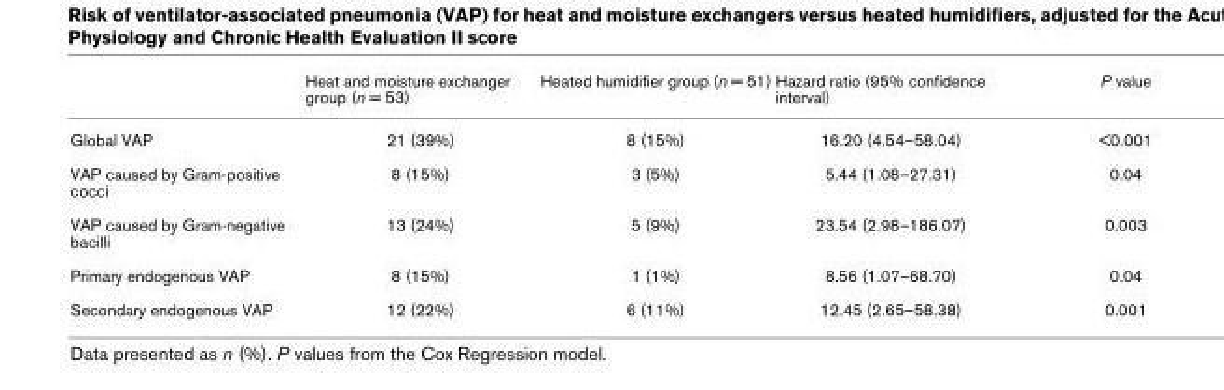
<table><thead><tr><td></td><td>Heat and moisture exchanger group (n = 53)</td><td>Heated humidifier group (n = 51)</td><td>Hazard ratio (95% confidence interval)</td><td>P value</td></tr></thead><tbody><tr><td>Global VAP</td><td>21 (39%)</td><td>8 (15%)</td><td>16.20 (4.54–58.04)</td><td>&lt;0.001</td></tr><tr><td>VAP caused by Gram-positive cocci</td><td>8 (15%)</td><td>3 (5%)</td><td>5.44 (1.08–27.31)</td><td>0.04</td></tr><tr><td>VAP caused by Gram-negative bacilli</td><td>13 (24%)</td><td>5 (9%)</td><td>23.54 (2.98–186.07)</td><td>0.003</td></tr><tr><td>Primary endogenous VAP</td><td>8 (15%)</td><td>1 (1%)</td><td>8.56 (1.07–68.70)</td><td>0.04</td></tr><tr><td>Secondary endogenous VAP</td><td>12 (22%)</td><td>6 (11%)</td><td>12.45 (2.65–58.38)</td><td>0.001</td></tr></tbody></table>